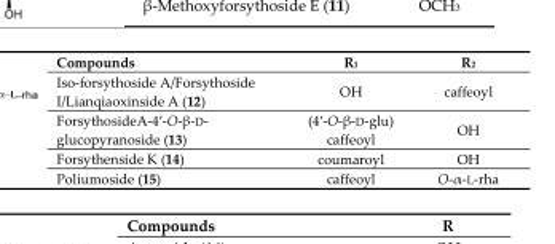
<table><tbody><tr><td>Compounds</td><td>R<sub>1</sub></td><td>R<sub>2</sub></td></tr><tr><td>Iso-forsythoside A/Forsythoside I/Lianqiaoxinside A (12)</td><td>OH</td><td>caffeoyl</td></tr><tr><td>ForsythosideA-4′-O-β-D- glucopyranoside (13)</td><td>(4′-O-β-D-glu) caffeoyl</td><td>OH</td></tr><tr><td>Forsythenside K (14)</td><td>coumaroyl</td><td>OH</td></tr><tr><td>Poliumoside (15)</td><td>caffeoyl</td><td>O-α-L-rha</td></tr></tbody></table>